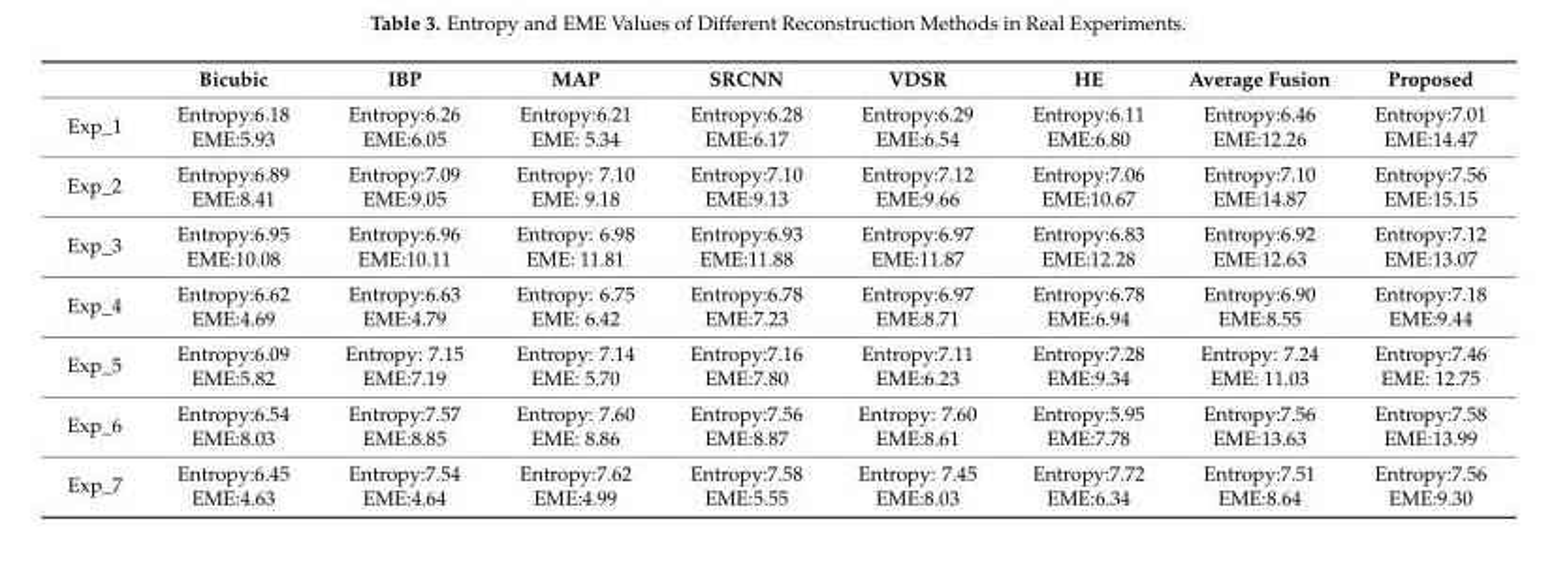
<table><thead><tr><td></td><td>Bicubic</td><td>IBP</td><td>MAP</td><td>SRCNN</td><td>VDSR</td><td>HE</td><td>Average Fusion</td><td>Proposed</td></tr></thead><tbody><tr><td rowspan="2">Exp_1</td><td>Entropy:6.18</td><td>Entropy:6.26</td><td>Entropy:6.21</td><td>Entropy:6.28</td><td>Entropy:6.29</td><td>Entropy:6.11</td><td>Entropy:6.46</td><td>Entropy:7.01</td></tr><tr><td>EME:5.93</td><td>EME:6.05</td><td>EME: 5.34</td><td>EME:6.17</td><td>EME:6.54</td><td>EME:6.80</td><td>EME:12.26</td><td>EME:14.47</td></tr><tr><td rowspan="2">Exp_2</td><td>Entropy:6.89</td><td>Entropy:7.09</td><td>Entropy: 7.10</td><td>Entropy:7.10</td><td>Entropy:7.12</td><td>Entropy:7.06</td><td>Entropy:7.10</td><td>Entropy:7.56</td></tr><tr><td>EME:8.41</td><td>EME:9.05</td><td>EME: 9.18</td><td>EME:9.13</td><td>EME:9.66</td><td>EME:10.67</td><td>EME:14.87</td><td>EME:15.15</td></tr><tr><td rowspan="2">Exp_3</td><td>Entropy:6.95</td><td>Entropy:6.96</td><td>Entropy: 6.98</td><td>Entropy:6.93</td><td>Entropy:6.97</td><td>Entropy:6.83</td><td>Entropy:6.92</td><td>Entropy:7.12</td></tr><tr><td>EME:10.08</td><td>EME:10.11</td><td>EME: 11.81</td><td>EME:11.88</td><td>EME:11.87</td><td>EME:12.28</td><td>EME:12.63</td><td>EME:13.07</td></tr><tr><td rowspan="2">Exp_4</td><td>Entropy:6.62</td><td>Entropy:6.63</td><td>Entropy: 6.75</td><td>Entropy:6.78</td><td>Entropy:6.97</td><td>Entropy:6.78</td><td>Entropy:6.90</td><td>Entropy:7.18</td></tr><tr><td>EME:4.69</td><td>EME:4.79</td><td>EME: 6.42</td><td>EME:7.23</td><td>EME:8.71</td><td>EME:6.94</td><td>EME:8.55</td><td>EME:9.44</td></tr><tr><td rowspan="2">Exp_5</td><td>Entropy:6.09</td><td>Entropy: 7.15</td><td>Entropy: 7.14</td><td>Entropy:7.16</td><td>Entropy:7.11</td><td>Entropy:7.28</td><td>Entropy: 7.24</td><td>Entropy:7.46</td></tr><tr><td>EME:5.82</td><td>EME:7.19</td><td>EME: 5.70</td><td>EME:7.80</td><td>EME:6.23</td><td>EME:9.34</td><td>EME: 11.03</td><td>EME: 12.75</td></tr><tr><td rowspan="2">Exp_6</td><td>Entropy:6.54</td><td>Entropy:7.57</td><td>Entropy: 7.60</td><td>Entropy:7.56</td><td>Entropy: 7.60</td><td>Entropy:5.95</td><td>Entropy:7.56</td><td>Entropy:7.58</td></tr><tr><td>EME:8.03</td><td>EME:8.85</td><td>EME: 8.86</td><td>EME:8.87</td><td>EME:8.61</td><td>EME:7.78</td><td>EME:13.63</td><td>EME:13.99</td></tr><tr><td rowspan="2">Exp_7</td><td>Entropy:6.45</td><td>Entropy:7.54</td><td>Entropy:7.62</td><td>Entropy:7.58</td><td>Entropy: 7.45</td><td>Entropy:7.72</td><td>Entropy:7.51</td><td>Entropy:7.56</td></tr><tr><td>EME:4.63</td><td>EME:4.64</td><td>EME:4.99</td><td>EME:5.55</td><td>EME:8.03</td><td>EME:6.34</td><td>EME:8.64</td><td>EME:9.30</td></tr></tbody></table>